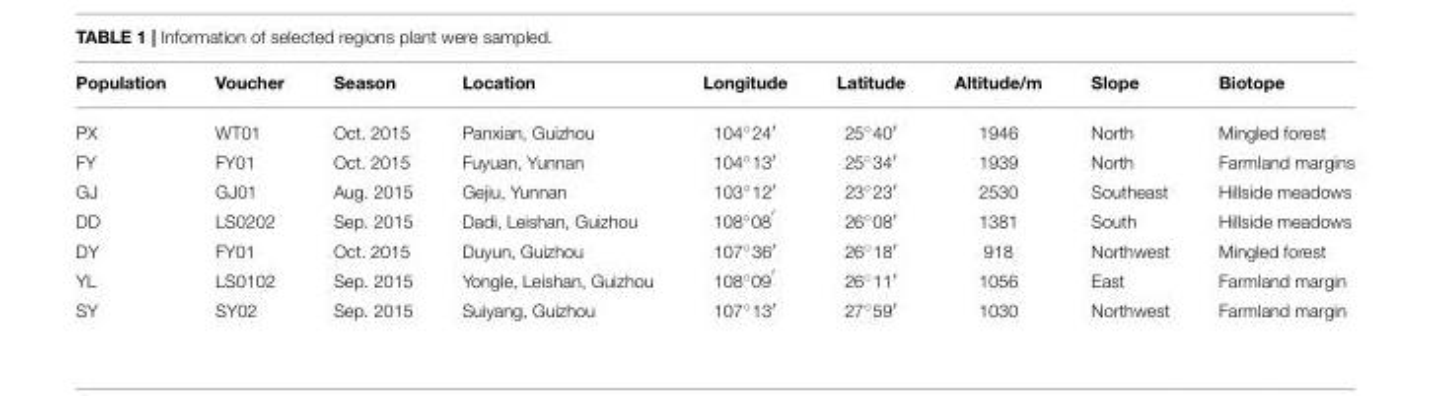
<table><thead><tr><td>Population</td><td>Voucher</td><td>Season</td><td>Location</td><td>Longitude</td><td>Latitude</td><td>Altitude/m</td><td>Slope</td><td>Biotope</td></tr></thead><tbody><tr><td>PX</td><td>WT01</td><td>Oct. 2015</td><td>Panxian, Guizhou</td><td>104◦24′</td><td>25◦40′</td><td>1946</td><td>North</td><td>Mingled forest</td></tr><tr><td>FY</td><td>FY01</td><td>Oct. 2015</td><td>Fuyuan, Yunnan</td><td>104◦13′</td><td>25◦34′</td><td>1939</td><td>North</td><td>Farmland margins</td></tr><tr><td>GJ</td><td>GJ01</td><td>Aug. 2015</td><td>Gejiu, Yunnan</td><td>103◦12′</td><td>23◦23′</td><td>2530</td><td>Southeast</td><td>Hillside meadows</td></tr><tr><td>DD</td><td>LS0202</td><td>Sep. 2015</td><td>Dadi, Leishan, Guizhou</td><td>108◦08 ′</td><td>26◦08′</td><td>1381</td><td>South</td><td>Hillside meadows</td></tr><tr><td>DY</td><td>FY01</td><td>Oct. 2015</td><td>Duyun, Guizhou</td><td>107◦36′</td><td>26◦18′</td><td>918</td><td>Northwest</td><td>Mingled forest</td></tr><tr><td>YL</td><td>LS0102</td><td>Sep. 2015</td><td>Yongle, Leishan, Guizhou</td><td>108◦09 ′</td><td>26◦11′</td><td>1056</td><td>East</td><td>Farmland margin</td></tr><tr><td>SY</td><td>SY02</td><td>Sep. 2015</td><td>Suiyang, Guizhou</td><td>107◦13′</td><td>27◦59′</td><td>1030</td><td>Northwest</td><td>Farmland margin</td></tr></tbody></table>